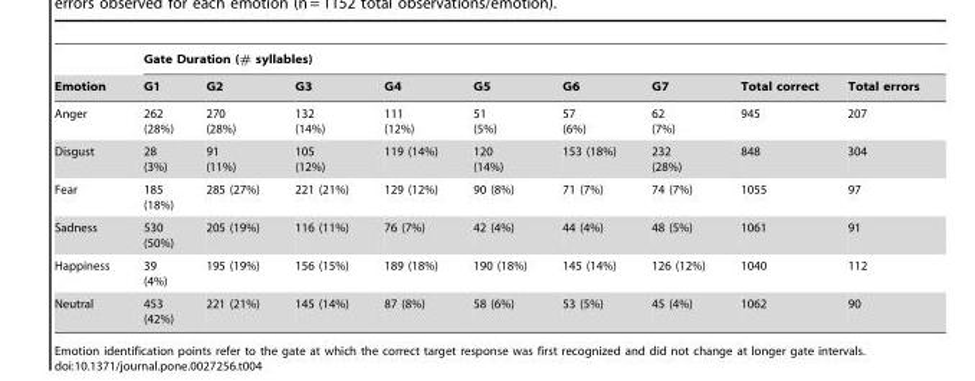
<table><thead><tr><td rowspan="2">Emotion</td><td colspan="9">Gate Duration (# syllables)</td></tr><tr><td>G1</td><td>G2</td><td>G3</td><td>G4</td><td>G5</td><td>G6</td><td>G7</td><td>Total correct</td><td>Total errors</td></tr></thead><tbody><tr><td>Anger</td><td>262 (28%)</td><td>270 (28%)</td><td>132 (14%)</td><td>111 (12%)</td><td>51 (5%)</td><td>57 (6%)</td><td>62 (7%)</td><td>945</td><td>207</td></tr><tr><td>Disgust</td><td>28 (3%)</td><td>91 (11%)</td><td>105 (12%)</td><td>119 (14%)</td><td>120 (14%)</td><td>153 (18%)</td><td>232 (28%)</td><td>848</td><td>304</td></tr><tr><td>Fear</td><td>185 (18%)</td><td>285 (27%)</td><td>221 (21%)</td><td>129 (12%)</td><td>90 (8%)</td><td>71 (7%)</td><td>74 (7%)</td><td>1055</td><td>97</td></tr><tr><td>Sadness</td><td>530 (50%)</td><td>205 (19%)</td><td>116 (11%)</td><td>76 (7%)</td><td>42 (4%)</td><td>44 (4%)</td><td>48 (5%)</td><td>1061</td><td>91</td></tr><tr><td>Happiness</td><td>39 (4%)</td><td>195 (19%)</td><td>156 (15%)</td><td>189 (18%)</td><td>190 (18%)</td><td>145 (14%)</td><td>126 (12%)</td><td>1040</td><td>112</td></tr><tr><td>Neutral</td><td>453 (42%)</td><td>221 (21%)</td><td>145 (14%)</td><td>87 (8%)</td><td>58 (6%)</td><td>53 (5%)</td><td>45 (4%)</td><td>1062</td><td>90</td></tr></tbody></table>